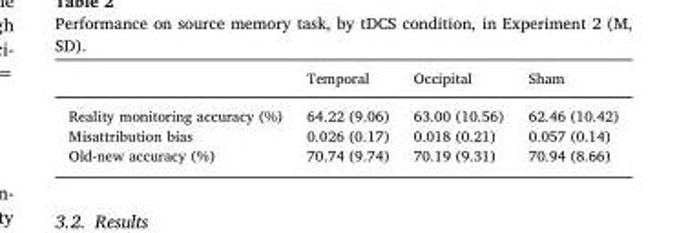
<table><thead><tr><td></td><td>Temporal</td><td>Occipital</td><td>Sham</td></tr></thead><tbody><tr><td>Reality monitoring accuracy (%)</td><td>64.22 (9.06)</td><td>63.00 (10.56)</td><td>62.46 (10.42)</td></tr><tr><td>Misattribution bias</td><td>0.026 (0.17)</td><td>0.018 (0.21)</td><td>0.057 (0.14)</td></tr><tr><td>Old-new accuracy (%)</td><td>70.74 (9.74)</td><td>70.19 (9.31)</td><td>70.94 (8.66)</td></tr></tbody></table>